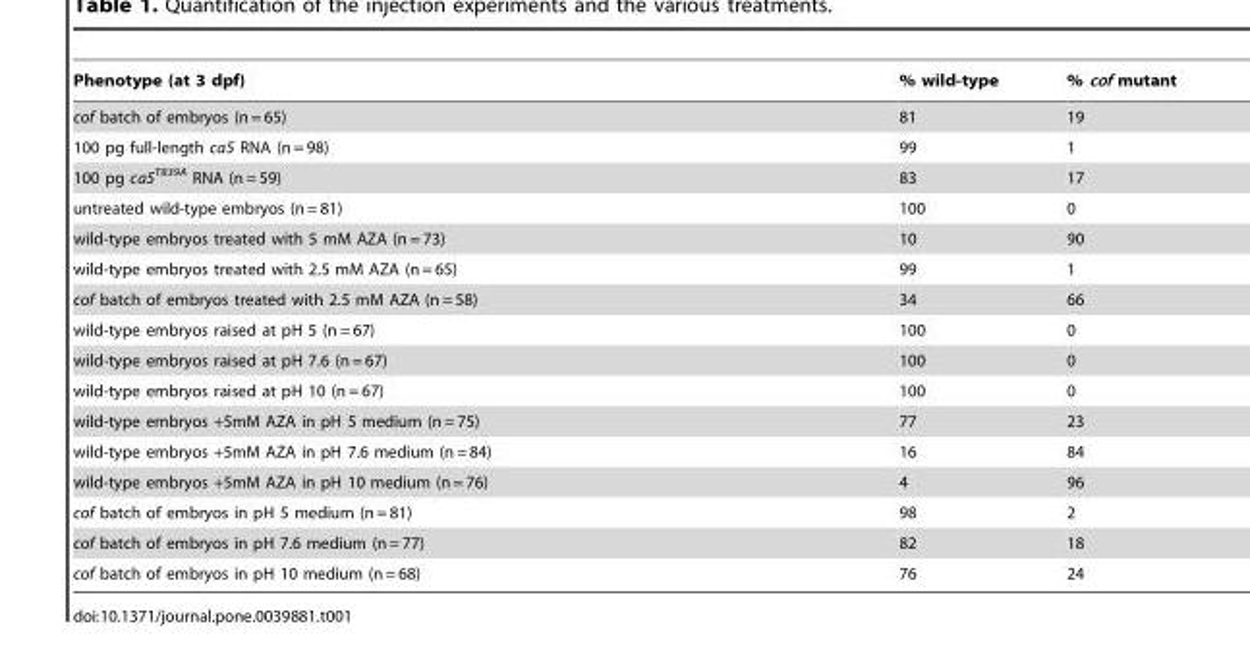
<table><thead><tr><td>Phenotype (at 3 dpf)</td><td>% wild-type</td><td>% cof mutant</td></tr></thead><tbody><tr><td>cof batch of embryos (n = 65)</td><td>81</td><td>19</td></tr><tr><td>100 pg full-length ca5 RNA (n = 98)</td><td>99</td><td>1</td></tr><tr><td>100 pg ca5<sup>T839A</sup> RNA (n = 59)</td><td>83</td><td>17</td></tr><tr><td>untreated wild-type embryos (n = 81)</td><td>100</td><td>0</td></tr><tr><td>wild-type embryos treated with 5 mM AZA (n = 73)</td><td>10</td><td>90</td></tr><tr><td>wild-type embryos treated with 2.5 mM AZA (n = 65)</td><td>99</td><td>1</td></tr><tr><td>cof batch of embryos treated with 2.5 mM AZA (n = 58)</td><td>34</td><td>66</td></tr><tr><td>wild-type embryos raised at pH 5 (n = 67)</td><td>100</td><td>0</td></tr><tr><td>wild-type embryos raised at pH 7.6 (n = 67)</td><td>100</td><td>0</td></tr><tr><td>wild-type embryos raised at pH 10 (n = 67)</td><td>100</td><td>0</td></tr><tr><td>wild-type embryos +5mM AZA in pH 5 medium (n = 75)</td><td>77</td><td>23</td></tr><tr><td>wild-type embryos +5mM AZA in pH 7.6 medium (n = 84)</td><td>16</td><td>84</td></tr><tr><td>wild-type embryos +5mM AZA in pH 10 medium (n = 76)</td><td>4</td><td>96</td></tr><tr><td>cof batch of embryos in pH 5 medium (n = 81)</td><td>98</td><td>2</td></tr><tr><td>cof batch of embryos in pH 7.6 medium (n = 77)</td><td>82</td><td>18</td></tr><tr><td>cof batch of embryos in pH 10 medium (n = 68)</td><td>76</td><td>24</td></tr></tbody></table>